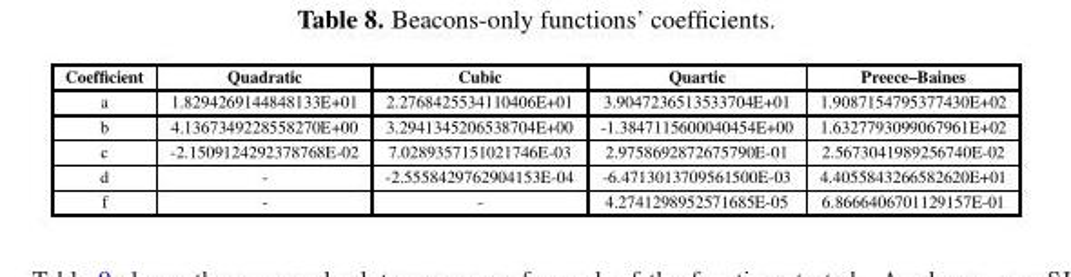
<table><thead><tr><td>Coefficient</td><td>Quadratic</td><td>Cubic</td><td>Quartic</td><td>Preece–Baines</td></tr></thead><tbody><tr><td>a</td><td>1.8294269144848133E+01</td><td>2.2768425534110406E+01</td><td>3.9047236513533704E+01</td><td>1.9087154795377430E+02</td></tr><tr><td>b</td><td>4.1367349228558270E+00</td><td>3.2941345206538704E+00</td><td>-1.3847115600040454E+00</td><td>1.6327793099067961E+02</td></tr><tr><td>c</td><td>-2.1509124292378768E-02</td><td>7.0289357151021746E-03</td><td>2.9758692872675790E-01</td><td>2.5673041989256740E-02</td></tr><tr><td>d</td><td>-</td><td>-2.5558429762904153E-04</td><td>-6.4713013709561500E-03</td><td>4.4055843266582620E+01</td></tr><tr><td>f</td><td>-</td><td>-</td><td>4.2741298952571685E-05</td><td>6.8666406701129157E-01</td></tr></tbody></table>